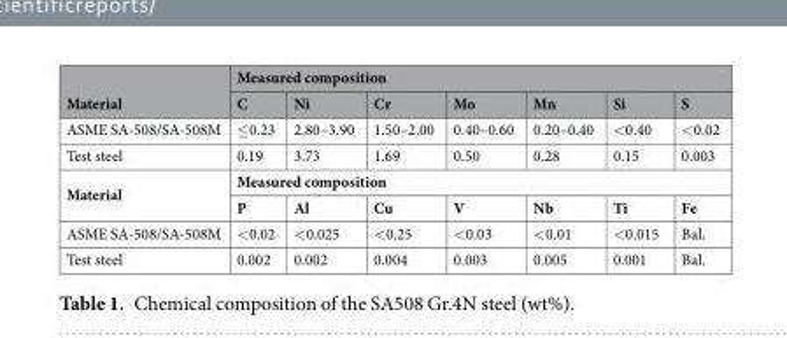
<table><thead><tr><td rowspan="2">Material</td><td colspan="7">Measured composition</td></tr><tr><td>C</td><td>Ni</td><td>Cr</td><td>Mo</td><td>Mn</td><td>Si</td><td>S</td></tr></thead><tbody><tr><td>ASME SA-508/SA-508M</td><td>≤0.23</td><td>2.80–3.90</td><td>1.50–2.00</td><td>0.40–0.60</td><td>0.20–0.40</td><td>&lt;0.40</td><td>&lt;0.02</td></tr><tr><td>Test steel</td><td>0.19</td><td>3.73</td><td>1.69</td><td>0.50</td><td>0.28</td><td>0.15</td><td>0.003</td></tr><tr><td rowspan="2">Material</td><td colspan="7">Measured composition</td></tr><tr><td>P</td><td>Al</td><td>Cu</td><td>V</td><td>Nb</td><td>Ti</td><td>Fe</td></tr><tr><td>ASME SA-508/SA-508M</td><td>&lt;0.02</td><td>&lt;0.025</td><td>&lt;0.25</td><td>&lt;0.03</td><td>&lt;0.01</td><td>&lt;0.015</td><td>Bal.</td></tr><tr><td>Test steel</td><td>0.002</td><td>0.002</td><td>0.004</td><td>0.003</td><td>0.005</td><td>0.001</td><td>Bal.</td></tr></tbody></table>